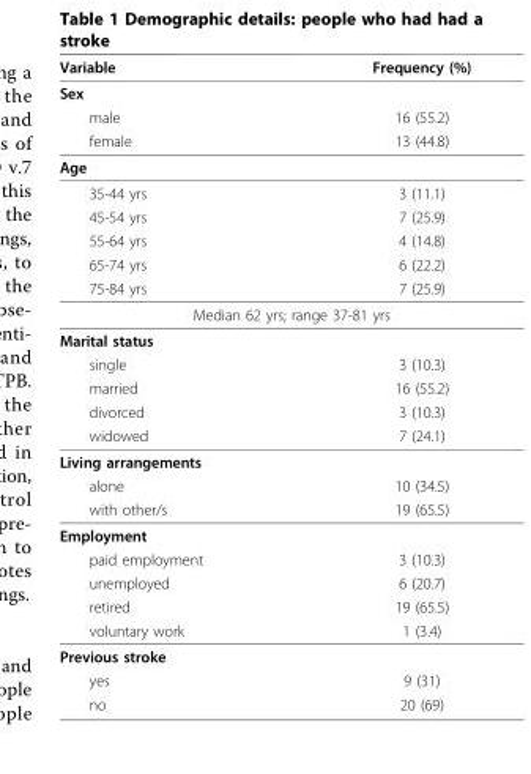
<table><thead><tr><td>Variable</td><td>Frequency (%)</td></tr></thead><tbody><tr><td colspan="2">Sex</td></tr><tr><td>male</td><td>16 (55.2)</td></tr><tr><td>female</td><td>13 (44.8)</td></tr><tr><td colspan="2">Age</td></tr><tr><td>35-44 yrs</td><td>3 (11.1)</td></tr><tr><td>45-54 yrs</td><td>7 (25.9)</td></tr><tr><td>55-64 yrs</td><td>4 (14.8)</td></tr><tr><td>65-74 yrs</td><td>6 (22.2)</td></tr><tr><td>75-84 yrs</td><td>7 (25.9)</td></tr><tr><td colspan="2">Median 62 yrs; range 37-81 yrs</td></tr><tr><td colspan="2">Marital status</td></tr><tr><td>single</td><td>3 (10.3)</td></tr><tr><td>married</td><td>16 (55.2)</td></tr><tr><td>divorced</td><td>3 (10.3)</td></tr><tr><td>widowed</td><td>7 (24.1)</td></tr><tr><td colspan="2">Living arrangements</td></tr><tr><td>alone</td><td>10 (34.5)</td></tr><tr><td>with other/s</td><td>19 (65.5)</td></tr><tr><td colspan="2">Employment</td></tr><tr><td>paid employment</td><td>3 (10.3)</td></tr><tr><td>unemployed</td><td>6 (20.7)</td></tr><tr><td>retired</td><td>19 (65.5)</td></tr><tr><td>voluntary work</td><td>1 (3.4)</td></tr><tr><td colspan="2">Previous stroke</td></tr><tr><td>yes</td><td>9 (31)</td></tr><tr><td>no</td><td>20 (69)</td></tr></tbody></table>